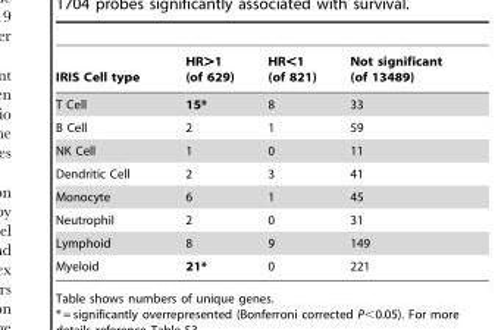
<table><thead><tr><td>IRIS Cell type</td><td>HR&gt;1 (of 629)</td><td>HR&lt;1 (of 821)</td><td>Not significant (of 13489)</td></tr></thead><tbody><tr><td>T Cell</td><td>15*</td><td>8</td><td>33</td></tr><tr><td>B Cell</td><td>2</td><td>1</td><td>59</td></tr><tr><td>NK Cell</td><td>1</td><td>0</td><td>11</td></tr><tr><td>Dendritic Cell</td><td>2</td><td>3</td><td>41</td></tr><tr><td>Monocyte</td><td>6</td><td>1</td><td>45</td></tr><tr><td>Neutrophil</td><td>2</td><td>0</td><td>31</td></tr><tr><td>Lymphoid</td><td>8</td><td>9</td><td>149</td></tr><tr><td>Myeloid</td><td>21*</td><td>0</td><td>221</td></tr></tbody></table>